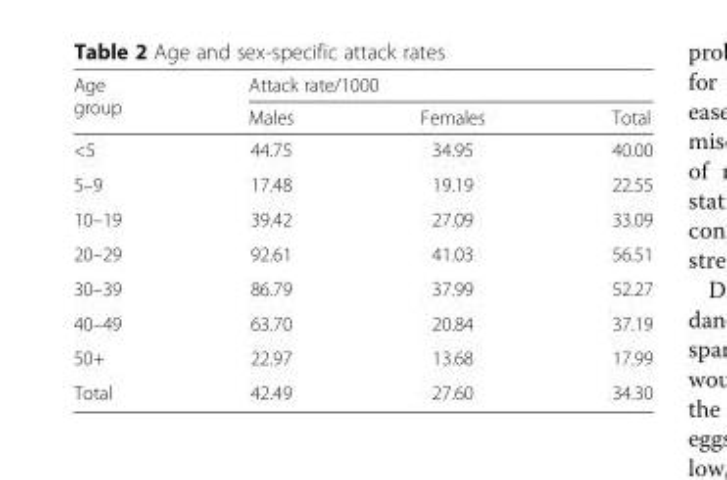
<table><thead><tr><td rowspan="2">Age group</td><td colspan="3">Attack rate/1000</td></tr><tr><td>Males</td><td>Females</td><td>Total</td></tr></thead><tbody><tr><td>&lt;5</td><td>44.75</td><td>34.95</td><td>40.00</td></tr><tr><td>5–9</td><td>17.48</td><td>19.19</td><td>22.55</td></tr><tr><td>10–19</td><td>39.42</td><td>27.09</td><td>33.09</td></tr><tr><td>20–29</td><td>92.61</td><td>41.03</td><td>56.51</td></tr><tr><td>30–39</td><td>86.79</td><td>37.99</td><td>52.27</td></tr><tr><td>40–49</td><td>63.70</td><td>20.84</td><td>37.19</td></tr><tr><td>50+</td><td>22.97</td><td>13.68</td><td>17.99</td></tr><tr><td>Total</td><td>42.49</td><td>27.60</td><td>34.30</td></tr></tbody></table>